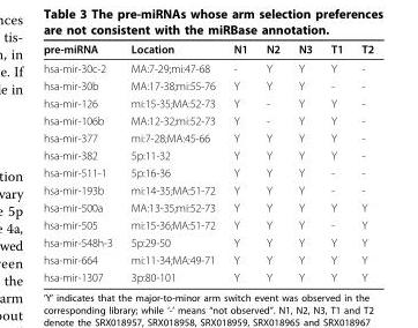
<table><thead><tr><td>pre-miRNA</td><td>Location</td><td>N1</td><td>N2</td><td>N3</td><td>T1</td><td>T2</td></tr></thead><tbody><tr><td>hsa-mir-30c-2</td><td>MA:7-29;mi:47-68</td><td>-</td><td>Y</td><td>Y</td><td>Y</td><td>-</td></tr><tr><td>hsa-mir-30b</td><td>MA:17-38;mi:55-76</td><td>Y</td><td>Y</td><td>Y</td><td>-</td><td>-</td></tr><tr><td>hsa-mir-126</td><td>mi:15-35;MA:52-73</td><td>Y</td><td>-</td><td>Y</td><td>Y</td><td>-</td></tr><tr><td>hsa-mir-106b</td><td>MA:12-32;mi:52-73</td><td>Y</td><td>-</td><td>Y</td><td>Y</td><td>-</td></tr><tr><td>hsa-mir-377</td><td>mi:7-28;MA:45-66</td><td>Y</td><td>Y</td><td>Y</td><td>Y</td><td>-</td></tr><tr><td>hsa-mir-382</td><td>5p:11-32</td><td>Y</td><td>Y</td><td>Y</td><td>Y</td><td>-</td></tr><tr><td>hsa-mir-511-1</td><td>5p:16-36</td><td>Y</td><td>Y</td><td>Y</td><td>-</td><td>-</td></tr><tr><td>hsa-mir-193b</td><td>mi:14-35;MA:51-72</td><td>Y</td><td>Y</td><td>Y</td><td>-</td><td>-</td></tr><tr><td>hsa-mir-500a</td><td>MA:13-35;mi:52-73</td><td>Y</td><td>Y</td><td>Y</td><td>Y</td><td>Y</td></tr><tr><td>hsa-mir-505</td><td>mi:15-36;MA:51-72</td><td>Y</td><td>Y</td><td>Y</td><td>-</td><td>Y</td></tr><tr><td>hsa-mir-548h-3</td><td>5p:29-50</td><td>Y</td><td>Y</td><td>Y</td><td>Y</td><td>Y</td></tr><tr><td>hsa-mir-664</td><td>mi:11-34;MA:49-71</td><td>Y</td><td>Y</td><td>Y</td><td>Y</td><td>Y</td></tr><tr><td>hsa-mir-1307</td><td>3p:80-101</td><td>Y</td><td>Y</td><td>Y</td><td>Y</td><td>Y</td></tr></tbody></table>